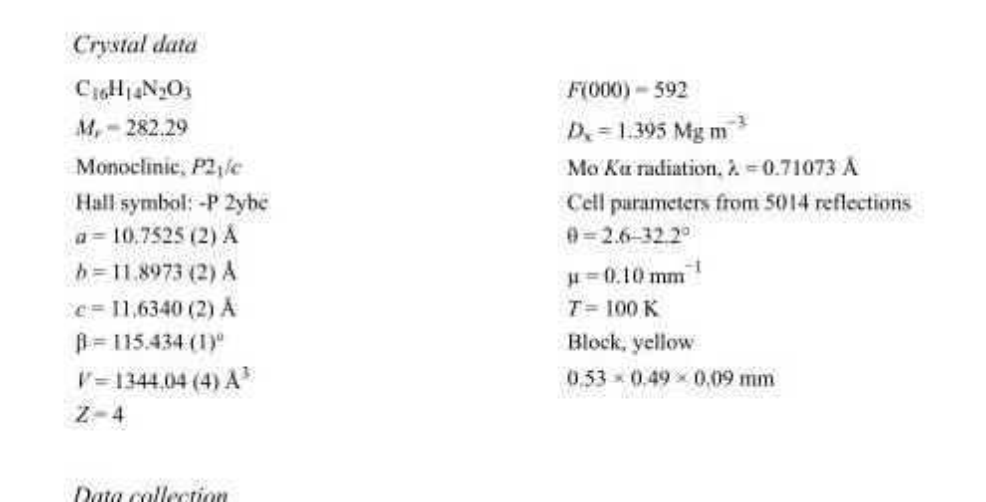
<table><tbody><tr><td>C<sub>16</sub>H<sub>14</sub>N<sub>2</sub>O<sub>3</sub></td><td>F(000) = 592</td></tr><tr><td>M<sub>r</sub> = 282.29</td><td>D<sub>x</sub> = 1.395 Mg m<sup>−3</sup></td></tr><tr><td>Monoclinic, P2<sub>1</sub>/c</td><td>Mo Kα radiation, λ = 0.71073 Å</td></tr><tr><td>Hall symbol: -P 2ybc</td><td>Cell parameters from 5014 reflections</td></tr><tr><td>a = 10.7525 (2) Å</td><td>θ = 2.6–32.2°</td></tr><tr><td>b = 11.8973 (2) Å</td><td>µ = 0.10 mm<sup>−1</sup></td></tr><tr><td>c = 11.6340 (2) Å</td><td>T = 100 K</td></tr><tr><td>β = 115.434 (1)°</td><td>Block, yellow</td></tr><tr><td>V = 1344.04 (4) Å<sup>3</sup></td><td>0.53 × 0.49 × 0.09 mm</td></tr><tr><td>Z = 4</td><td></td></tr></tbody></table>